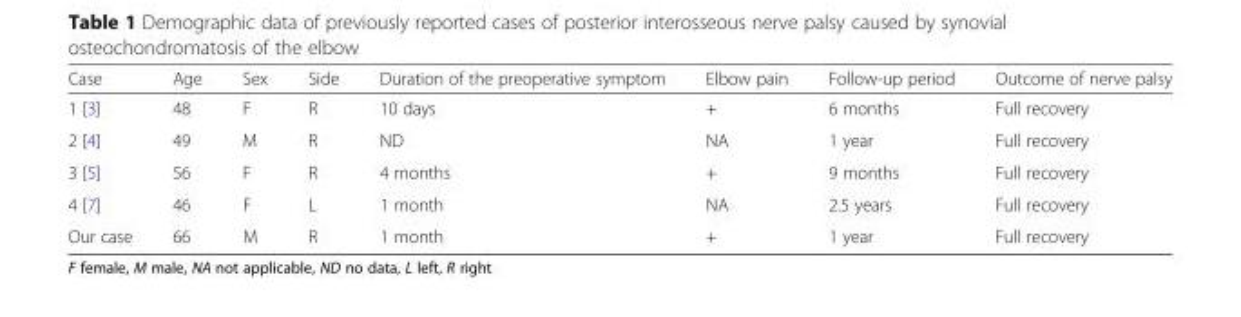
<table><thead><tr><td>Case</td><td>Age</td><td>Sex</td><td>Side</td><td>Duration of the preoperative symptom</td><td>Elbow pain</td><td>Follow-up period</td><td>Outcome of nerve palsy</td></tr></thead><tbody><tr><td>1 [3]</td><td>48</td><td>F</td><td>R</td><td>10 days</td><td>+</td><td>6 months</td><td>Full recovery</td></tr><tr><td>2 [4]</td><td>49</td><td>M</td><td>R</td><td>ND</td><td>NA</td><td>1 year</td><td>Full recovery</td></tr><tr><td>3 [5]</td><td>56</td><td>F</td><td>R</td><td>4 months</td><td>+</td><td>9 months</td><td>Full recovery</td></tr><tr><td>4 [7]</td><td>46</td><td>F</td><td>L</td><td>1 month</td><td>NA</td><td>2.5 years</td><td>Full recovery</td></tr><tr><td>Our case</td><td>66</td><td>M</td><td>R</td><td>1 month</td><td>+</td><td>1 year</td><td>Full recovery</td></tr></tbody></table>